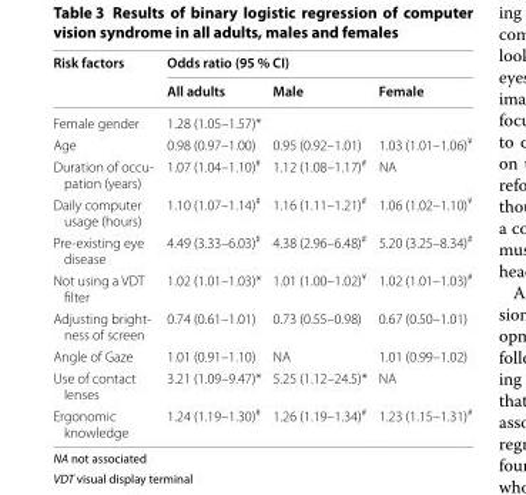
<table><thead><tr><td rowspan="2">Risk factors</td><td colspan="3">Odds ratio (95 % CI)</td></tr><tr><td>All adults</td><td>Male</td><td>Female</td></tr></thead><tbody><tr><td>Female gender</td><td>1.28 (1.05–1.57)*</td><td></td><td></td></tr><tr><td>Age</td><td>0.98 (0.97–1.00)</td><td>0.95 (0.92–1.01)</td><td>1.03 (1.01–1.06)<sup>¥</sup></td></tr><tr><td>Duration of occu- pation (years)</td><td>1.07 (1.04–1.10)<sup>#</sup></td><td>1.12 (1.08–1.17)<sup>#</sup></td><td>NA</td></tr><tr><td>Daily computer usage (hours)</td><td>1.10 (1.07–1.14)<sup>#</sup></td><td>1.16 (1.11–1.21)<sup>#</sup></td><td>1.06 (1.02–1.10)<sup>¥</sup></td></tr><tr><td>Pre-existing eye disease</td><td>4.49 (3.33–6.03)<sup>#</sup></td><td>4.38 (2.96–6.48)<sup>#</sup></td><td>5.20 (3.25–8.34)<sup>#</sup></td></tr><tr><td>Not using a VDT filter</td><td>1.02 (1.01–1.03)*</td><td>1.01 (1.00–1.02)<sup>¥</sup></td><td>1.02 (1.01–1.03)<sup>#</sup></td></tr><tr><td>Adjusting bright- ness of screen</td><td>0.74 (0.61–1.01)</td><td>0.73 (0.55–0.98)</td><td>0.67 (0.50–1.01)</td></tr><tr><td>Angle of Gaze</td><td>1.01 (0.91–1.10)</td><td>NA</td><td>1.01 (0.99–1.02)</td></tr><tr><td>Use of contact lenses</td><td>3.21 (1.09–9.47)*</td><td>5.25 (1.12–24.5)*</td><td>NA</td></tr><tr><td>Ergonomic knowledge</td><td>1.24 (1.19–1.30)<sup>#</sup></td><td>1.26 (1.19–1.34)<sup>#</sup></td><td>1.23 (1.15–1.31)<sup>#</sup></td></tr></tbody></table>